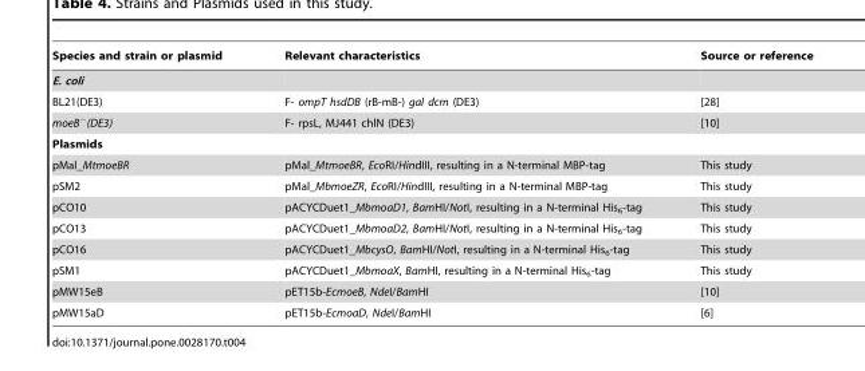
<table><thead><tr><td>Species and strain or plasmid</td><td>Relevant characteristics</td><td>Source or reference</td></tr></thead><tbody><tr><td colspan="3">E. coli</td></tr><tr><td>BL21(DE3)</td><td>F- ompT hsdDB (rB-mB-) gal dcm (DE3)</td><td>[28]</td></tr><tr><td>moeB<sup>−</sup>(DE3)</td><td>F- rpsL, MJ441 chlN (DE3)</td><td>[10]</td></tr><tr><td colspan="3">Plasmids</td></tr><tr><td>pMal_MtmoeBR</td><td>pMal_MtmoeBR, EcoRI/HindIII, resulting in a N-terminal MBP-tag</td><td>This study</td></tr><tr><td>pSM2</td><td>pMal_MbmoeZR, EcoRI/HindIII, resulting in a N-terminal MBP-tag</td><td>This study</td></tr><tr><td>pCO10</td><td>pACYCDuet1_MbmoaD1, BamHI/NotI, resulting in a N-terminal His<sub>6</sub>-tag</td><td>This study</td></tr><tr><td>pCO13</td><td>pACYCDuet1_MbmoaD2, BamHI/NotI, resulting in a N-terminal His<sub>6</sub>-tag</td><td>This study</td></tr><tr><td>pCO16</td><td>pACYCDuet1_MbcysO, BamHI/NotI, resulting in a N-terminal His<sub>6</sub>-tag</td><td>This study</td></tr><tr><td>pSM1</td><td>pACYCDuet1_MbmoaX, BamHI, resulting in a N-terminal His<sub>6</sub>-tag</td><td>This study</td></tr><tr><td>pMW15eB</td><td>pET15b-EcmoeB, NdeI/BamHI</td><td>[10]</td></tr><tr><td>pMW15aD</td><td>pET15b-EcmoaD, NdeI/BamHI</td><td>[6]</td></tr></tbody></table>